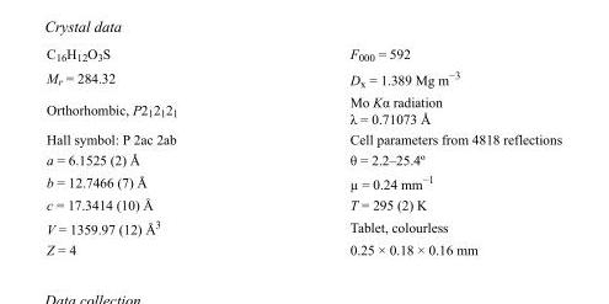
<table><tbody><tr><td>C<sub>16</sub>H<sub>12</sub>O<sub>3</sub>S</td><td>F<sub>000</sub> = 592</td></tr><tr><td>M<sub>r</sub> = 284.32</td><td>D<sub>x</sub> = 1.389 Mg m<sup>−3</sup></td></tr><tr><td>Orthorhombic, P2<sub>1</sub>2<sub>1</sub>2<sub>1</sub></td><td>Mo Kα radiation λ = 0.71073 Å</td></tr><tr><td>Hall symbol: P 2ac 2ab</td><td>Cell parameters from 4818 reflections</td></tr><tr><td>a = 6.1525 (2) Å</td><td>θ = 2.2–25.4º</td></tr><tr><td>b = 12.7466 (7) Å</td><td>µ = 0.24 mm<sup>−1</sup></td></tr><tr><td>c = 17.3414 (10) Å</td><td>T = 295 (2) K</td></tr><tr><td>V = 1359.97 (12) Å<sup>3</sup></td><td>Tablet, colourless</td></tr><tr><td>Z = 4</td><td>0.25 × 0.18 × 0.16 mm</td></tr></tbody></table>